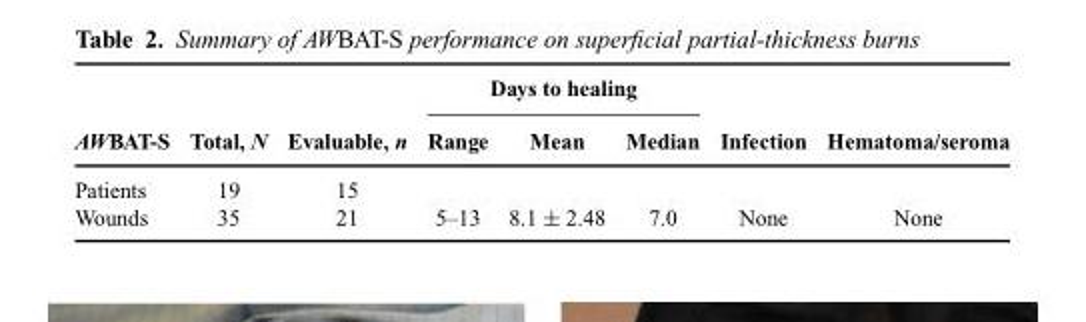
<table><thead><tr><td rowspan="2">AWBAT-S</td><td rowspan="2">Total, N</td><td rowspan="2">Evaluable, n</td><td colspan="3">Days to healing</td><td rowspan="2">Infection</td><td rowspan="2">Hematoma/seroma</td></tr><tr><td>Range</td><td>Mean</td><td>Median</td></tr></thead><tbody><tr><td>Patients</td><td>19</td><td>15</td><td></td><td></td><td></td><td></td><td></td></tr><tr><td>Wounds</td><td>35</td><td>21</td><td>5–13</td><td>8.1 ± 2.48</td><td>7.0</td><td>None</td><td>None</td></tr></tbody></table>